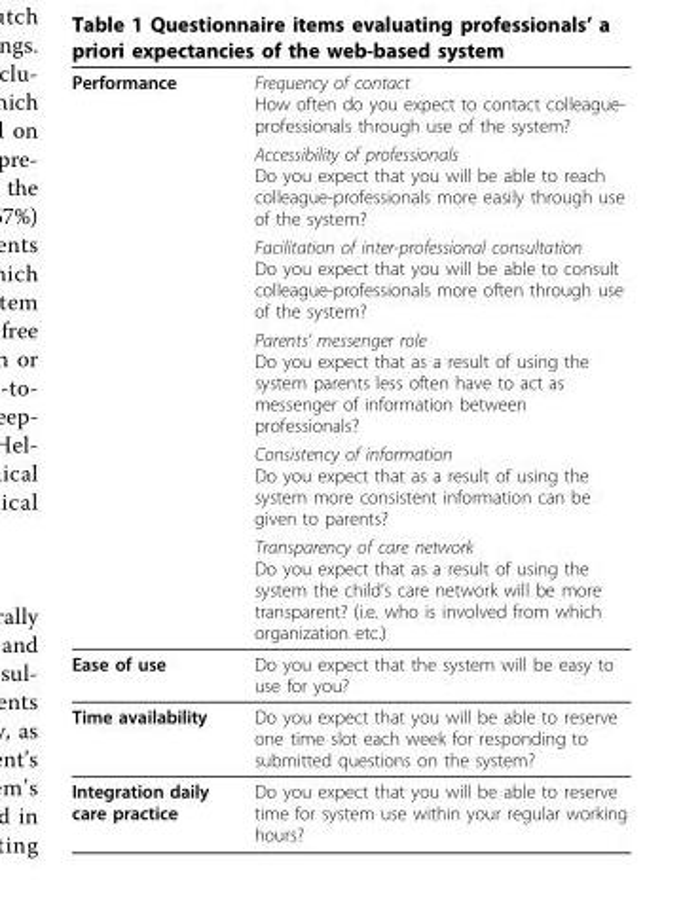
<table><thead><tr><td rowspan="6">Performance</td><td rowspan="6">Frequency of contact How often do you expect to contact colleague- professionals through use of the system? Accessibility of professionals Do you expect that you will be able to reach colleague-professionals more easily through use of the system? Facilitation of inter-professional consultation Do you expect that you will be able to consult colleague-professionals more often through use of the system? Parents’ messenger role Do you expect that as a result of using the system parents less often have to act as messenger of information between professionals? Consistency of information Do you expect that as a result of using the system more consistent information can be given to parents? Transparency of care network Do you expect that as a result of using the system the child’s care network will be more transparent? (i.e. who is involved from which organization etc.)</td></tr><tr></tr><tr></tr><tr></tr><tr></tr><tr></tr></thead><tbody><tr><td>Ease of use</td><td>Do you expect that the system will be easy to use for you?</td></tr><tr><td>Time availability</td><td>Do you expect that you will be able to reserve one time slot each week for responding to submitted questions on the system?</td></tr><tr><td>Integration daily care practice</td><td>Do you expect that you will be able to reserve time for system use within your regular working hours?</td></tr></tbody></table>